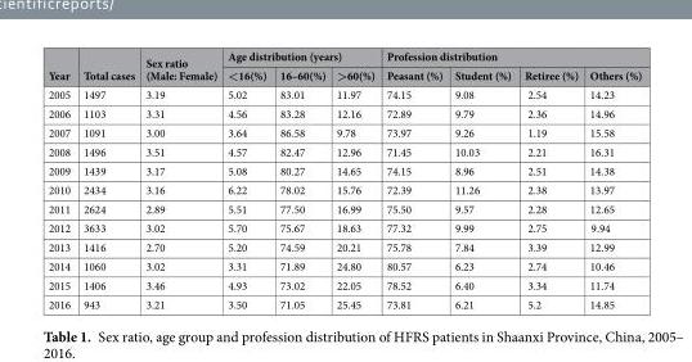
<table><thead><tr><td rowspan="2">Year</td><td rowspan="2">Total cases</td><td rowspan="2">Sex ratio (Male: Female)</td><td colspan="3">Age distribution (years)</td><td colspan="4">Profession distribution</td></tr><tr><td>&lt;16(%)</td><td>16–60(%)</td><td>&gt;60(%)</td><td>Peasant (%)</td><td>Student (%)</td><td>Retiree (%)</td><td>Others (%)</td></tr></thead><tbody><tr><td>2005</td><td>1497</td><td>3.19</td><td>5.02</td><td>83.01</td><td>11.97</td><td>74.15</td><td>9.08</td><td>2.54</td><td>14.23</td></tr><tr><td>2006</td><td>1103</td><td>3.31</td><td>4.56</td><td>83.28</td><td>12.16</td><td>72.89</td><td>9.79</td><td>2.36</td><td>14.96</td></tr><tr><td>2007</td><td>1091</td><td>3.00</td><td>3.64</td><td>86.58</td><td>9.78</td><td>73.97</td><td>9.26</td><td>1.19</td><td>15.58</td></tr><tr><td>2008</td><td>1496</td><td>3.51</td><td>4.57</td><td>82.47</td><td>12.96</td><td>71.45</td><td>10.03</td><td>2.21</td><td>16.31</td></tr><tr><td>2009</td><td>1439</td><td>3.17</td><td>5.08</td><td>80.27</td><td>14.65</td><td>74.15</td><td>8.96</td><td>2.51</td><td>14.38</td></tr><tr><td>2010</td><td>2434</td><td>3.16</td><td>6.22</td><td>78.02</td><td>15.76</td><td>72.39</td><td>11.26</td><td>2.38</td><td>13.97</td></tr><tr><td>2011</td><td>2624</td><td>2.89</td><td>5.51</td><td>77.50</td><td>16.99</td><td>75.50</td><td>9.57</td><td>2.28</td><td>12.65</td></tr><tr><td>2012</td><td>3633</td><td>3.02</td><td>5.70</td><td>75.67</td><td>18.63</td><td>77.32</td><td>9.99</td><td>2.75</td><td>9.94</td></tr><tr><td>2013</td><td>1416</td><td>2.70</td><td>5.20</td><td>74.59</td><td>20.21</td><td>75.78</td><td>7.84</td><td>3.39</td><td>12.99</td></tr><tr><td>2014</td><td>1060</td><td>3.02</td><td>3.31</td><td>71.89</td><td>24.80</td><td>80.57</td><td>6.23</td><td>2.74</td><td>10.46</td></tr><tr><td>2015</td><td>1406</td><td>3.46</td><td>4.93</td><td>73.02</td><td>22.05</td><td>78.52</td><td>6.40</td><td>3.34</td><td>11.74</td></tr><tr><td>2016</td><td>943</td><td>3.21</td><td>3.50</td><td>71.05</td><td>25.45</td><td>73.81</td><td>6.21</td><td>5.2</td><td>14.85</td></tr></tbody></table>